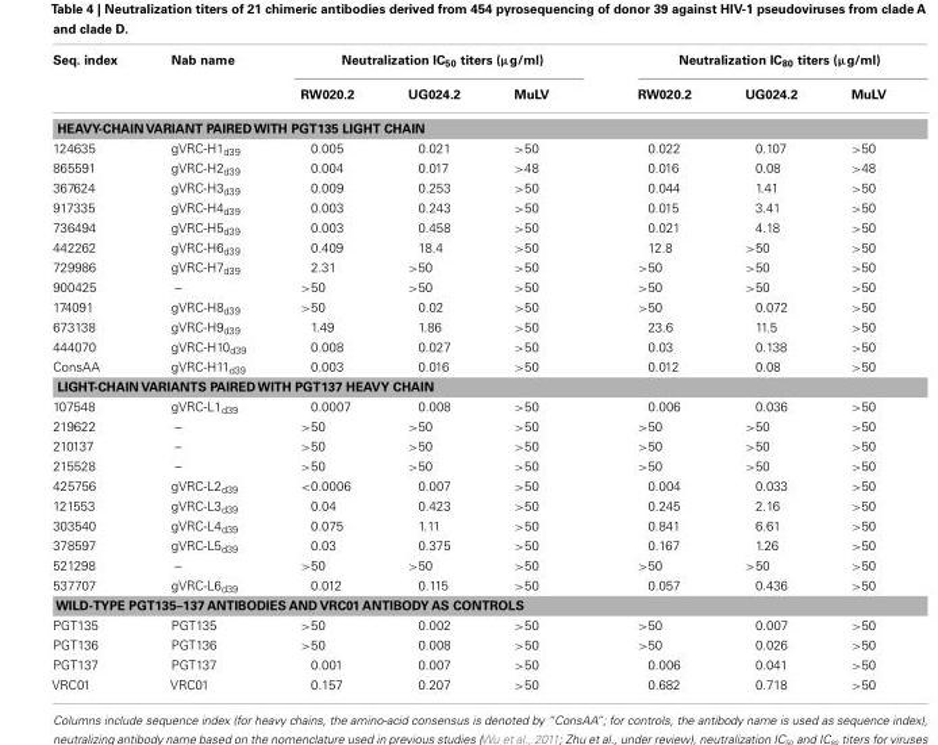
<table><thead><tr><td rowspan="2">Seq. index</td><td rowspan="2">Nab name</td><td colspan="3">Neutralization IC<sub>50</sub> titers (µg/ml)</td><td colspan="3">Neutralization IC<sub>80</sub> titers (µg/ml)</td></tr><tr><td>RW020.2</td><td>UG024.2</td><td>MuLV</td><td>RW020.2</td><td>UG024.2</td><td>MuLV</td></tr></thead><tbody><tr><td colspan="8">HEAVY-CHAIN VARIANT PAIRED WITH PGT135 LIGHT CHAIN</td></tr><tr><td>124635</td><td>gVRC-H1<sub>d39</sub></td><td>0.005</td><td>0.021</td><td>&gt;50</td><td>0.022</td><td>0.107</td><td>&gt;50</td></tr><tr><td>865591</td><td>gVRC-H2<sub>d39</sub></td><td>0.004</td><td>0.017</td><td>&gt;48</td><td>0.016</td><td>0.08</td><td>&gt;48</td></tr><tr><td>367624</td><td>gVRC-H3<sub>d39</sub></td><td>0.009</td><td>0.253</td><td>&gt;50</td><td>0.044</td><td>1.41</td><td>&gt;50</td></tr><tr><td>917335</td><td>gVRC-H4<sub>d39</sub></td><td>0.003</td><td>0.243</td><td>&gt;50</td><td>0.015</td><td>3.41</td><td>&gt;50</td></tr><tr><td>736494</td><td>gVRC-H5<sub>d39</sub></td><td>0.003</td><td>0.458</td><td>&gt;50</td><td>0.021</td><td>4.18</td><td>&gt;50</td></tr><tr><td>442262</td><td>gVRC-H6<sub>d39</sub></td><td>0.409</td><td>18.4</td><td>&gt;50</td><td>12.8</td><td>&gt;50</td><td>&gt;50</td></tr><tr><td>729986</td><td>gVRC-H7<sub>d39</sub></td><td>2.31</td><td>&gt;50</td><td>&gt;50</td><td>&gt;50</td><td>&gt;50</td><td>&gt;50</td></tr><tr><td>900425</td><td>–</td><td>&gt;50</td><td>&gt;50</td><td>&gt;50</td><td>&gt;50</td><td>&gt;50</td><td>&gt;50</td></tr><tr><td>174091</td><td>gVRC-H8<sub>d39</sub></td><td>&gt;50</td><td>0.02</td><td>&gt;50</td><td>&gt;50</td><td>0.072</td><td>&gt;50</td></tr><tr><td>673138</td><td>gVRC-H9<sub>d39</sub></td><td>1.49</td><td>1.86</td><td>&gt;50</td><td>23.6</td><td>11.5</td><td>&gt;50</td></tr><tr><td>444070</td><td>gVRC-H10<sub>d39</sub></td><td>0.008</td><td>0.027</td><td>&gt;50</td><td>0.03</td><td>0.138</td><td>&gt;50</td></tr><tr><td>ConsAA</td><td>gVRC-H11<sub>d39</sub></td><td>0.003</td><td>0.016</td><td>&gt;50</td><td>0.012</td><td>0.08</td><td>&gt;50</td></tr><tr><td colspan="8">LIGHT-CHAIN VARIANTS PAIRED WITH PGT137 HEAVY CHAIN</td></tr><tr><td>107548</td><td>gVRC-L1<sub>d39</sub></td><td>0.0007</td><td>0.008</td><td>&gt;50</td><td>0.006</td><td>0.036</td><td>&gt;50</td></tr><tr><td>219622</td><td>–</td><td>&gt;50</td><td>&gt;50</td><td>&gt;50</td><td>&gt;50</td><td>&gt;50</td><td>&gt;50</td></tr><tr><td>210137</td><td>–</td><td>&gt;50</td><td>&gt;50</td><td>&gt;50</td><td>&gt;50</td><td>&gt;50</td><td>&gt;50</td></tr><tr><td>215528</td><td>–</td><td>&gt;50</td><td>&gt;50</td><td>&gt;50</td><td>&gt;50</td><td>&gt;50</td><td>&gt;50</td></tr><tr><td>425756</td><td>gVRC-L2<sub>d39</sub></td><td>&lt;0.0006</td><td>0.007</td><td>&gt;50</td><td>0.004</td><td>0.033</td><td>&gt;50</td></tr><tr><td>121553</td><td>gVRC-L3<sub>d39</sub></td><td>0.04</td><td>0.423</td><td>&gt;50</td><td>0.245</td><td>2.16</td><td>&gt;50</td></tr><tr><td>303540</td><td>gVRC-L4<sub>d39</sub></td><td>0.075</td><td>1.11</td><td>&gt;50</td><td>0.841</td><td>6.61</td><td>&gt;50</td></tr><tr><td>378597</td><td>gVRC-L5<sub>d39</sub></td><td>0.03</td><td>0.375</td><td>&gt;50</td><td>0.167</td><td>1.26</td><td>&gt;50</td></tr><tr><td>521298</td><td>–</td><td>&gt;50</td><td>&gt;50</td><td>&gt;50</td><td>&gt;50</td><td>&gt;50</td><td>&gt;50</td></tr><tr><td>537707</td><td>gVRC-L6<sub>d39</sub></td><td>0.012</td><td>0.115</td><td>&gt;50</td><td>0.057</td><td>0.436</td><td>&gt;50</td></tr><tr><td colspan="8">WILD-TYPE PGT135–137 ANTIBODIES AND VRC01 ANTIBODY AS CONTROLS</td></tr><tr><td>PGT135</td><td>PGT135</td><td>&gt;50</td><td>0.002</td><td>&gt;50</td><td>&gt;50</td><td>0.007</td><td>&gt;50</td></tr><tr><td>PGT136</td><td>PGT136</td><td>&gt;50</td><td>0.008</td><td>&gt;50</td><td>&gt;50</td><td>0.026</td><td>&gt;50</td></tr><tr><td>PGT137</td><td>PGT137</td><td>0.001</td><td>0.007</td><td>&gt;50</td><td>0.006</td><td>0.041</td><td>&gt;50</td></tr><tr><td>VRC01</td><td>VRC01</td><td>0.157</td><td>0.207</td><td>&gt;50</td><td>0.682</td><td>0.718</td><td>&gt;50</td></tr></tbody></table>